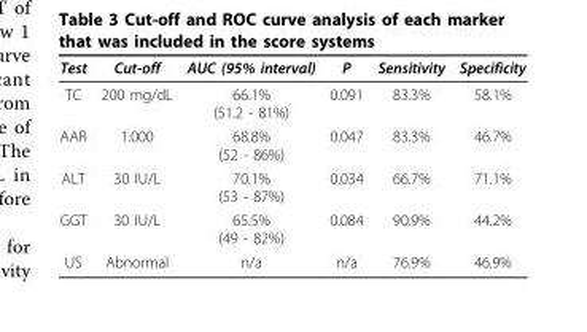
<table><thead><tr><td>Test</td><td>Cut-off</td><td>AUC (95% interval)</td><td>P</td><td>Sensitivity</td><td>Specificity</td></tr></thead><tbody><tr><td>TC</td><td>200 mg/dL</td><td>66.1% (51.2 - 81%)</td><td>0.091</td><td>83.3%</td><td>58.1%</td></tr><tr><td>AAR</td><td>1.000</td><td>68.8% (52 - 86%)</td><td>0.047</td><td>83.3%</td><td>46.7%</td></tr><tr><td>ALT</td><td>30 IU/L</td><td>70.1% (53 - 87%)</td><td>0.034</td><td>66.7%</td><td>71.1%</td></tr><tr><td>GGT</td><td>30 IU/L</td><td>65.5% (49 - 82%)</td><td>0.084</td><td>90.9%</td><td>44.2%</td></tr><tr><td>US</td><td>Abnormal</td><td>n/a</td><td>n/a</td><td>76.9%</td><td>46.9%</td></tr></tbody></table>